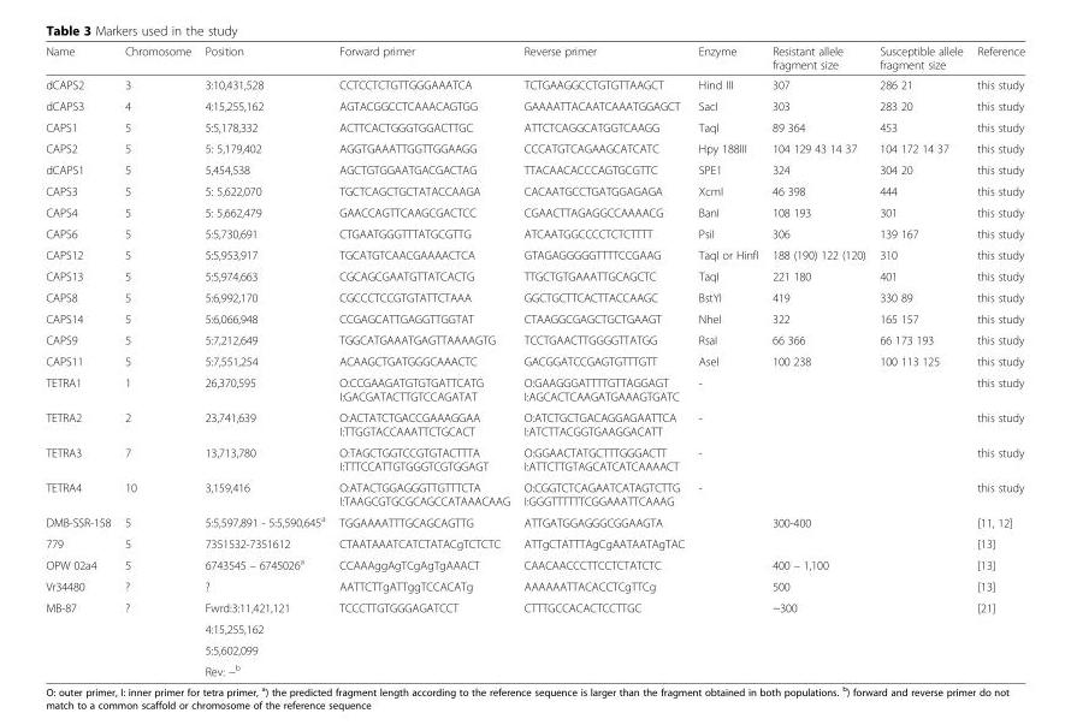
<table><thead><tr><td>Name</td><td>Chromosome</td><td>Position</td><td>Forward primer</td><td>Reverse primer</td><td>Enzyme</td><td>Resistant allele fragment size</td><td>Susceptible allele fragment size</td><td>Reference</td></tr></thead><tbody><tr><td>dCAPS2</td><td>3</td><td>3:10,431,528</td><td>CCTCCTCTGTTGGGAAATCA</td><td>TCTGAAGGCCTGTGTTAAGCT</td><td>Hind III</td><td>307</td><td>286 21</td><td>this study</td></tr><tr><td>dCAPS3</td><td>4</td><td>4:15,255,162</td><td>AGTACGGCCTCAAACAGTGG</td><td>GAAAATTACAATCAAATGGAGCT</td><td>SacI</td><td>303</td><td>283 20</td><td>this study</td></tr><tr><td>CAPS1</td><td>5</td><td>5:5,178,332</td><td>ACTTCACTGGGTGGACTTGC</td><td>ATTCTCAGGCATGGTCAAGG</td><td>TaqI</td><td>89 364</td><td>453</td><td>this study</td></tr><tr><td>CAPS2</td><td>5</td><td>5: 5,179,402</td><td>AGGTGAAATTGGTTGGAAGG</td><td>CCCATGTCAGAAGCATCATC</td><td>Hpy 188III</td><td>104 129 43 14 37</td><td>104 172 14 37</td><td>this study</td></tr><tr><td>dCAPS1</td><td>5</td><td>5,454,538</td><td>AGCTGTGGAATGACGACTAG</td><td>TTACAACACCCAGTGCGTTC</td><td>SPE1</td><td>324</td><td>304 20</td><td>this study</td></tr><tr><td>CAPS3</td><td>5</td><td>5: 5,622,070</td><td>TGCTCAGCTGCTATACCAAGA</td><td>CACAATGCCTGATGGAGAGA</td><td>XcmI</td><td>46 398</td><td>444</td><td>this study</td></tr><tr><td>CAPS4</td><td>5</td><td>5: 5,662,479</td><td>GAACCAGTTCAAGCGACTCC</td><td>CGAACTTAGAGGCCAAAACG</td><td>BanI</td><td>108 193</td><td>301</td><td>this study</td></tr><tr><td>CAPS6</td><td>5</td><td>5:5,730,691</td><td>CTGAATGGGTTTATGCGTTG</td><td>ATCAATGGCCCCTCTCTTTT</td><td>PsiI</td><td>306</td><td>139 167</td><td>this study</td></tr><tr><td>CAPS12</td><td>5</td><td>5:5,953,917</td><td>TGCATGTCAACGAAAACTCA</td><td>GTAGAGGGGGTTTTCCGAAG</td><td>TaqI or HinfI</td><td>188 (190) 122 (120)</td><td>310</td><td>this study</td></tr><tr><td>CAPS13</td><td>5</td><td>5:5,974,663</td><td>CGCAGCGAATGTTATCACTG</td><td>TTGCTGTGAAATTGCAGCTC</td><td>TaqI</td><td>221 180</td><td>401</td><td>this study</td></tr><tr><td>CAPS8</td><td>5</td><td>5:6,992,170</td><td>CGCCCTCCGTGTATTCTAAA</td><td>GGCTGCTTCACTTACCAAGC</td><td>BstYI</td><td>419</td><td>330 89</td><td>this study</td></tr><tr><td>CAPS14</td><td>5</td><td>5:6,066,948</td><td>CCGAGCATTGAGGTTGGTAT</td><td>CTAAGGCGAGCTGCTGAAGT</td><td>NheI</td><td>322</td><td>165 157</td><td>this study</td></tr><tr><td>CAPS9</td><td>5</td><td>5:7,212,649</td><td>TGGCATGAAATGAGTTAAAAGTG</td><td>TCCTGAACTTGGGGTTATGG</td><td>RsaI</td><td>66 366</td><td>66 173 193</td><td>this study</td></tr><tr><td>CAPS11</td><td>5</td><td>5:7,551,254</td><td>ACAAGCTGATGGGCAAACTC</td><td>GACGGATCCGAGTGTTTGTT</td><td>AseI</td><td>100 238</td><td>100 113 125</td><td>this study</td></tr><tr><td>TETRA1</td><td>1</td><td>26,370,595</td><td>O:CCGAAGATGTGTGATTCATG I:GACGATACTTGTCCAGATAT</td><td>O:GAAGGGATTTTGTTAGGAGT I:AGCACTCAAGATGAAAGTGATC</td><td>-</td><td></td><td></td><td>this study</td></tr><tr><td>TETRA2</td><td>2</td><td>23,741,639</td><td>O:ACTATCTGACCGAAAGGAA I:TTGGTACCAAATTCTGCACT</td><td>O:ATCTGCTGACAGGAGAATTCA I:ATCTTACGGTGAAGGACATT</td><td>-</td><td></td><td></td><td>this study</td></tr><tr><td>TETRA3</td><td>7</td><td>13,713,780</td><td>O:TAGCTGGTCCGTGTACTTTA I:TTTCCATTGTGGGTCGTGGAGT</td><td>O:GGAACTATGCTTTGGGACTT I:ATTCTTGTAGCATCATCAAAACT</td><td>-</td><td></td><td></td><td>this study</td></tr><tr><td>TETRA4</td><td>10</td><td>3,159,416</td><td>O:ATACTGGAGGGTTGTTTCTA I:TAAGCGTGCGCAGCCATAAACAAG</td><td>O:CGGTCTCAGAATCATAGTCTTG I:GGGTTTTTTCGGAAATTCAAAG</td><td>-</td><td></td><td></td><td>this study</td></tr><tr><td>DMB-SSR-158</td><td>5</td><td>5:5,597,891 - 5:5,590,645<sup>a</sup></td><td>TGGAAAATTTGCAGCAGTTG</td><td>ATTGATGGAGGGCGGAAGTA</td><td></td><td colspan="2">300-400</td><td>[11, 12]</td></tr><tr><td>779</td><td>5</td><td>7351532-7351612</td><td>CTAATAAATCATCTATACgTCTCTC</td><td>ATTgCTATTTAgCgAATAATAgTAC</td><td></td><td colspan="2"></td><td>[13]</td></tr><tr><td>OPW 02a4</td><td>5</td><td>6743545 – 6745026<sup>a</sup></td><td>CCAAAggAgTCgAgTgAAACT</td><td>CAACAACCCTTCCTCTATCTC</td><td></td><td colspan="2">400 – 1,100</td><td>[13]</td></tr><tr><td>Vr34480</td><td>?</td><td>?</td><td>AATTCTTgATTggTCCACATg</td><td>AAAAAATTACACCTCgTTCg</td><td></td><td colspan="2">500</td><td>[13]</td></tr><tr><td rowspan="4">MB-87</td><td rowspan="4">?</td><td>Fwrd:3:11,421,121</td><td rowspan="4">TCCCTTGTGGGAGATCCT</td><td rowspan="4">CTTTGCCACACTCCTTGC</td><td rowspan="4"></td><td rowspan="4" colspan="2">~300</td><td rowspan="4">[21]</td></tr><tr><td>4:15,255,162</td></tr><tr><td>5:5,602,099</td></tr><tr><td>Rev: −<sup>b</sup></td></tr></tbody></table>